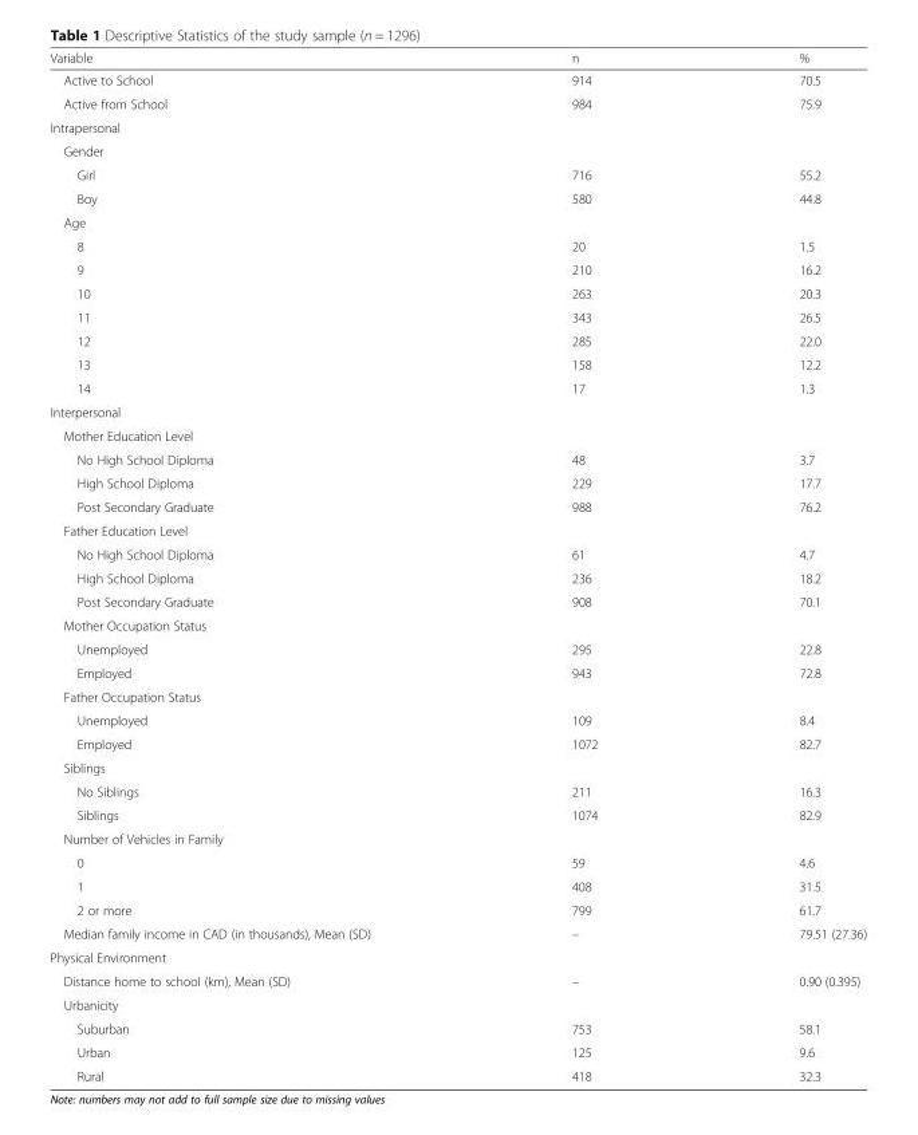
<table><thead><tr><td>Variable</td><td>n</td><td>%</td></tr></thead><tbody><tr><td>Active to School</td><td>914</td><td>70.5</td></tr><tr><td>Active from School</td><td>984</td><td>75.9</td></tr><tr><td colspan="3">Intrapersonal</td></tr><tr><td colspan="3">Gender</td></tr><tr><td>Girl</td><td>716</td><td>55.2</td></tr><tr><td>Boy</td><td>580</td><td>44.8</td></tr><tr><td colspan="3">Age</td></tr><tr><td>8</td><td>20</td><td>1.5</td></tr><tr><td>9</td><td>210</td><td>16.2</td></tr><tr><td>10</td><td>263</td><td>20.3</td></tr><tr><td>11</td><td>343</td><td>26.5</td></tr><tr><td>12</td><td>285</td><td>22.0</td></tr><tr><td>13</td><td>158</td><td>12.2</td></tr><tr><td>14</td><td>17</td><td>1.3</td></tr><tr><td colspan="3">Interpersonal</td></tr><tr><td colspan="3">Mother Education Level</td></tr><tr><td>No High School Diploma</td><td>48</td><td>3.7</td></tr><tr><td>High School Diploma</td><td>229</td><td>17.7</td></tr><tr><td>Post Secondary Graduate</td><td>988</td><td>76.2</td></tr><tr><td colspan="3">Father Education Level</td></tr><tr><td>No High School Diploma</td><td>61</td><td>4.7</td></tr><tr><td>High School Diploma</td><td>236</td><td>18.2</td></tr><tr><td>Post Secondary Graduate</td><td>908</td><td>70.1</td></tr><tr><td colspan="3">Mother Occupation Status</td></tr><tr><td>Unemployed</td><td>295</td><td>22.8</td></tr><tr><td>Employed</td><td>943</td><td>72.8</td></tr><tr><td colspan="3">Father Occupation Status</td></tr><tr><td>Unemployed</td><td>109</td><td>8.4</td></tr><tr><td>Employed</td><td>1072</td><td>82.7</td></tr><tr><td colspan="3">Siblings</td></tr><tr><td>No Siblings</td><td>211</td><td>16.3</td></tr><tr><td>Siblings</td><td>1074</td><td>82.9</td></tr><tr><td colspan="3">Number of Vehicles in Family</td></tr><tr><td>0</td><td>59</td><td>4.6</td></tr><tr><td>1</td><td>408</td><td>31.5</td></tr><tr><td>2 or more</td><td>799</td><td>61.7</td></tr><tr><td>Median family income in CAD (in thousands), Mean (SD)</td><td>–</td><td>79.51 (27.36)</td></tr><tr><td colspan="3">Physical Environment</td></tr><tr><td>Distance home to school (km), Mean (SD)</td><td>–</td><td>0.90 (0.395)</td></tr><tr><td colspan="3">Urbanicity</td></tr><tr><td>Suburban</td><td>753</td><td>58.1</td></tr><tr><td>Urban</td><td>125</td><td>9.6</td></tr><tr><td>Rural</td><td>418</td><td>32.3</td></tr></tbody></table>